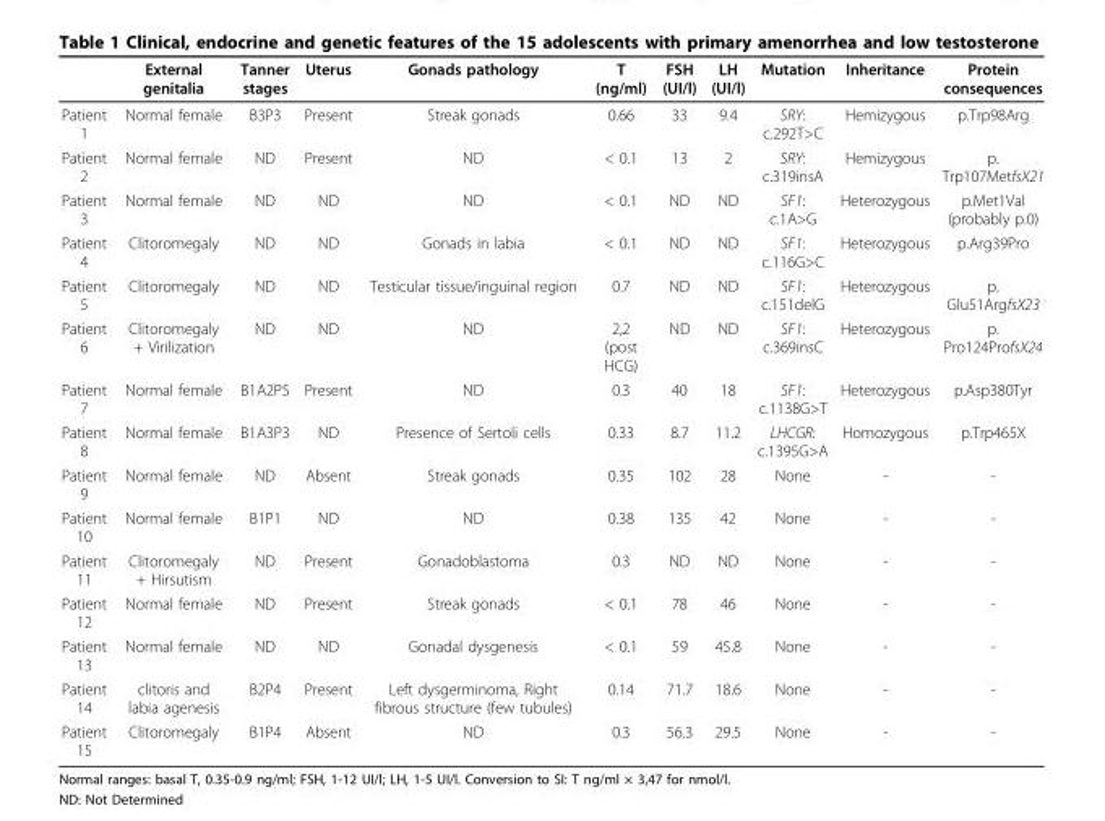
<table><thead><tr><td></td><td>External genitalia</td><td>Tanner stages</td><td>Uterus</td><td>Gonads pathology</td><td>T (ng/ml)</td><td>FSH (UI/l)</td><td>LH (UI/l)</td><td>Mutation</td><td>Inheritance</td><td>Protein consequences</td></tr></thead><tbody><tr><td>Patient 1</td><td>Normal female</td><td>B3P3</td><td>Present</td><td>Streak gonads</td><td>0.66</td><td>33</td><td>9.4</td><td>SRY: c.292T&gt;C</td><td>Hemizygous</td><td>p.Trp98Arg</td></tr><tr><td>Patient 2</td><td>Normal female</td><td>ND</td><td>Present</td><td>ND</td><td>&lt; 0.1</td><td>13</td><td>2</td><td>SRY: c.319insA</td><td>Hemizygous</td><td>p. Trp107MetfsX21</td></tr><tr><td>Patient 3</td><td>Normal female</td><td>ND</td><td>ND</td><td>ND</td><td>&lt; 0.1</td><td>ND</td><td>ND</td><td>SF1: c.1A&gt;G</td><td>Heterozygous</td><td>p.Met1Val (probably p.0)</td></tr><tr><td>Patient 4</td><td>Clitoromegaly</td><td>ND</td><td>ND</td><td>Gonads in labia</td><td>&lt; 0.1</td><td>ND</td><td>ND</td><td>SF1: c.116G&gt;C</td><td>Heterozygous</td><td>p.Arg39Pro</td></tr><tr><td>Patient 5</td><td>Clitoromegaly</td><td>ND</td><td>ND</td><td>Testicular tissue/inguinal region</td><td>0.7</td><td>ND</td><td>ND</td><td>SF1: c.151delG</td><td>Heterozygous</td><td>p. Glu51ArgfsX23</td></tr><tr><td>Patient 6</td><td>Clitoromegaly + Virilization</td><td>ND</td><td>ND</td><td>ND</td><td>2,2 (post HCG)</td><td>ND</td><td>ND</td><td>SF1: c.369insC</td><td>Heterozygous</td><td>p. Pro124ProfsX24</td></tr><tr><td>Patient 7</td><td>Normal female</td><td>B1A2P5</td><td>Present</td><td>ND</td><td>0.3</td><td>40</td><td>18</td><td>SF1: c.1138G&gt;T</td><td>Heterozygous</td><td>p.Asp380Tyr</td></tr><tr><td>Patient 8</td><td>Normal female</td><td>B1A3P3</td><td>ND</td><td>Presence of Sertoli cells</td><td>0.33</td><td>8.7</td><td>11.2</td><td>LHCGR: c.1395G&gt;A</td><td>Homozygous</td><td>p.Trp465X</td></tr><tr><td>Patient 9</td><td>Normal female</td><td>ND</td><td>Absent</td><td>Streak gonads</td><td>0.35</td><td>102</td><td>28</td><td>None</td><td>-</td><td>-</td></tr><tr><td>Patient 10</td><td>Normal female</td><td>B1P1</td><td>ND</td><td>ND</td><td>0.38</td><td>135</td><td>42</td><td>None</td><td>-</td><td>-</td></tr><tr><td>Patient 11</td><td>Clitoromegaly + Hirsutism</td><td>ND</td><td>Present</td><td>Gonadoblastoma</td><td>0.3</td><td>ND</td><td>ND</td><td>None</td><td>-</td><td>-</td></tr><tr><td>Patient 12</td><td>Normal female</td><td>ND</td><td>Present</td><td>Streak gonads</td><td>&lt; 0.1</td><td>78</td><td>46</td><td>None</td><td>-</td><td>-</td></tr><tr><td>Patient 13</td><td>Normal female</td><td>ND</td><td>ND</td><td>Gonadal dysgenesis</td><td>&lt; 0.1</td><td>59</td><td>45.8</td><td>None</td><td>-</td><td>-</td></tr><tr><td>Patient 14</td><td>clitoris and labia agenesis</td><td>B2P4</td><td>Present</td><td>Left dysgerminoma, Right fibrous structure (few tubules)</td><td>0.14</td><td>71.7</td><td>18.6</td><td>None</td><td>-</td><td>-</td></tr><tr><td>Patient 15</td><td>Clitoromegaly</td><td>B1P4</td><td>Absent</td><td>ND</td><td>0.3</td><td>56.3</td><td>29.5</td><td>None</td><td>-</td><td>-</td></tr></tbody></table>